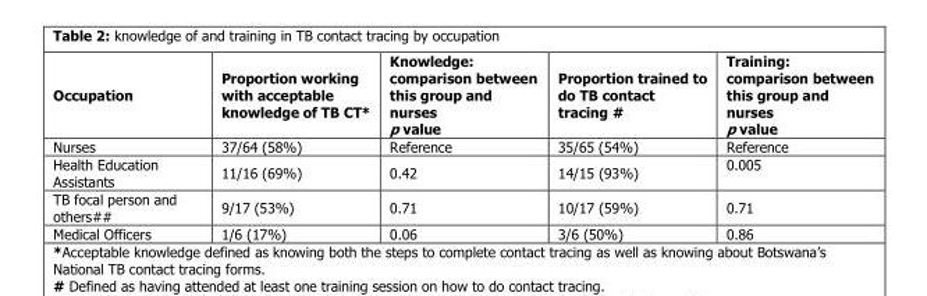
<table><thead><tr><td>Occupation</td><td>Proportion working with acceptable knowledge of TB CT*</td><td>Knowledge: comparison between this group and nurses p value</td><td>Proportion trained to do TB contact tracing #</td><td>Training: comparison between this group and nurses p value</td></tr></thead><tbody><tr><td>Nurses</td><td>37/64 (58%)</td><td>Reference</td><td>35/65 (54%)</td><td>Reference</td></tr><tr><td>Health Education Assistants</td><td>11/16 (69%)</td><td>0.42</td><td>14/15 (93%)</td><td>0.005</td></tr><tr><td>TB focal person and others##</td><td>9/17 (53%)</td><td>0.71</td><td>10/17 (59%)</td><td>0.71</td></tr><tr><td>Medical Officers</td><td>1/6 (17%)</td><td>0.06</td><td>3/6 (50%)</td><td>0.86</td></tr></tbody></table>